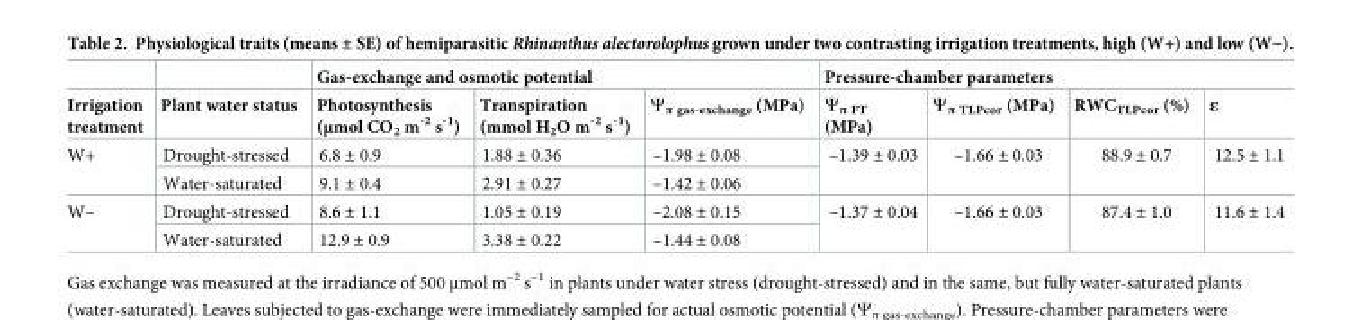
<table><thead><tr><td rowspan="2">Irrigation treatment</td><td rowspan="2">Plant water status</td><td colspan="3">Gas-exchange and osmotic potential</td><td colspan="4">Pressure-chamber parameters</td></tr><tr><td>Photosynthesis (μmol CO<sub>2</sub> m<sup>-2</sup> s<sup>-1</sup>)</td><td>Transpiration (mmol H<sub>2</sub>O m<sup>-2</sup> s<sup>-1</sup>)</td><td>Ψ<sub>π gas-exchange</sub> (MPa)</td><td>Ψ<sub>π FT</sub> (MPa)</td><td>Ψ<sub>π TLPcor</sub> (MPa)</td><td>RWC<sub>TLPcor</sub> (%)</td><td>ε</td></tr></thead><tbody><tr><td rowspan="2">W+</td><td>Drought-stressed</td><td>6.8 ± 0.9</td><td>1.88 ± 0.36</td><td>–1.98 ± 0.08</td><td rowspan="2">–1.39 ± 0.03</td><td rowspan="2">–1.66 ± 0.03</td><td rowspan="2">88.9 ± 0.7</td><td rowspan="2">12.5 ± 1.1</td></tr><tr><td>Water-saturated</td><td>9.1 ± 0.4</td><td>2.91 ± 0.27</td><td>–1.42 ± 0.06</td></tr><tr><td rowspan="2">W–</td><td>Drought-stressed</td><td>8.6 ± 1.1</td><td>1.05 ± 0.19</td><td>–2.08 ± 0.15</td><td rowspan="2">–1.37 ± 0.04</td><td rowspan="2">–1.66 ± 0.03</td><td rowspan="2">87.4 ± 1.0</td><td rowspan="2">11.6 ± 1.4</td></tr><tr><td>Water-saturated</td><td>12.9 ± 0.9</td><td>3.38 ± 0.22</td><td>–1.44 ± 0.08</td></tr></tbody></table>